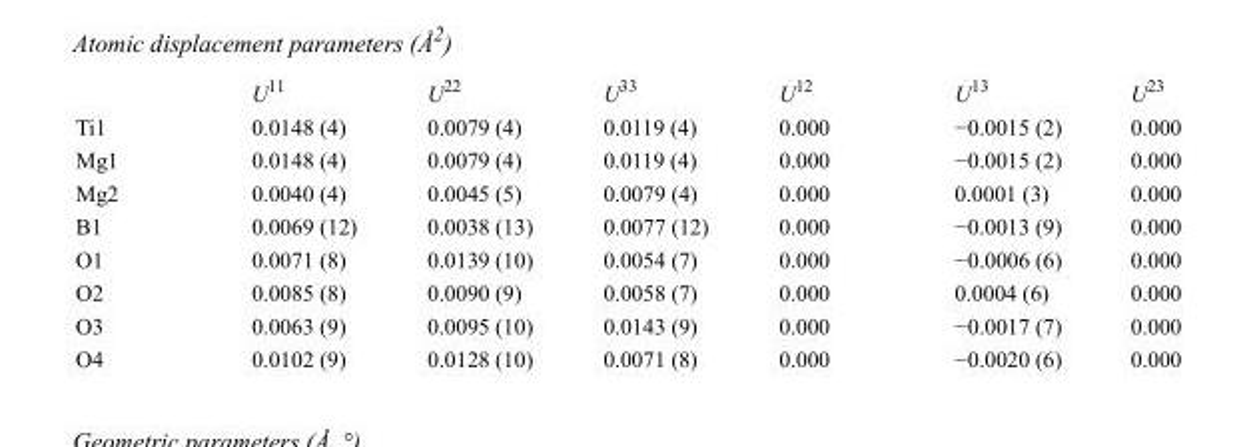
<table><thead><tr><td></td><td>U<sup>11</sup></td><td>U<sup>22</sup></td><td>U<sup>33</sup></td><td>U<sup>12</sup></td><td>U<sup>13</sup></td><td>U<sup>23</sup></td></tr></thead><tbody><tr><td>Ti1</td><td>0.0148 (4)</td><td>0.0079 (4)</td><td>0.0119 (4)</td><td>0.000</td><td>−0.0015 (2)</td><td>0.000</td></tr><tr><td>Mg1</td><td>0.0148 (4)</td><td>0.0079 (4)</td><td>0.0119 (4)</td><td>0.000</td><td>−0.0015 (2)</td><td>0.000</td></tr><tr><td>Mg2</td><td>0.0040 (4)</td><td>0.0045 (5)</td><td>0.0079 (4)</td><td>0.000</td><td>0.0001 (3)</td><td>0.000</td></tr><tr><td>B1</td><td>0.0069 (12)</td><td>0.0038 (13)</td><td>0.0077 (12)</td><td>0.000</td><td>−0.0013 (9)</td><td>0.000</td></tr><tr><td>O1</td><td>0.0071 (8)</td><td>0.0139 (10)</td><td>0.0054 (7)</td><td>0.000</td><td>−0.0006 (6)</td><td>0.000</td></tr><tr><td>O2</td><td>0.0085 (8)</td><td>0.0090 (9)</td><td>0.0058 (7)</td><td>0.000</td><td>0.0004 (6)</td><td>0.000</td></tr><tr><td>O3</td><td>0.0063 (9)</td><td>0.0095 (10)</td><td>0.0143 (9)</td><td>0.000</td><td>−0.0017 (7)</td><td>0.000</td></tr><tr><td>O4</td><td>0.0102 (9)</td><td>0.0128 (10)</td><td>0.0071 (8)</td><td>0.000</td><td>−0.0020 (6)</td><td>0.000</td></tr></tbody></table>